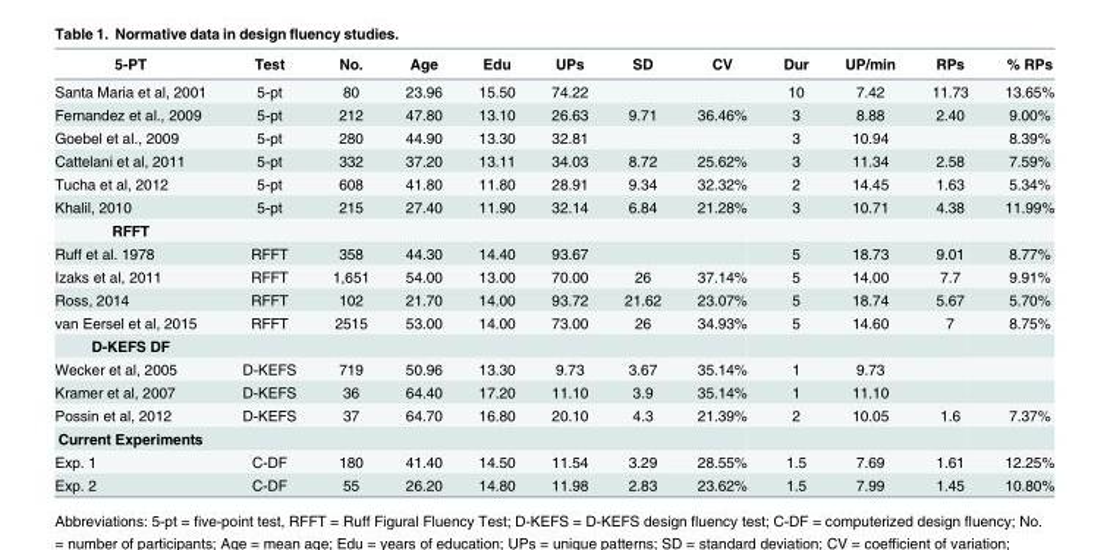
<table><thead><tr><td>5-PT</td><td>Test</td><td>No.</td><td>Age</td><td>Edu</td><td>UPs</td><td>SD</td><td>CV</td><td>Dur</td><td>UP/min</td><td>RPs</td><td>% RPs</td></tr></thead><tbody><tr><td>Santa Maria et al, 2001</td><td>5-pt</td><td>80</td><td>23.96</td><td>15.50</td><td>74.22</td><td></td><td></td><td>10</td><td>7.42</td><td>11.73</td><td>13.65%</td></tr><tr><td>Fernandez et al., 2009</td><td>5-pt</td><td>212</td><td>47.80</td><td>13.10</td><td>26.63</td><td>9.71</td><td>36.46%</td><td>3</td><td>8.88</td><td>2.40</td><td>9.00%</td></tr><tr><td>Goebel et al., 2009</td><td>5-pt</td><td>280</td><td>44.90</td><td>13.30</td><td>32.81</td><td></td><td></td><td>3</td><td>10.94</td><td></td><td>8.39%</td></tr><tr><td>Cattelani et al, 2011</td><td>5-pt</td><td>332</td><td>37.20</td><td>13.11</td><td>34.03</td><td>8.72</td><td>25.62%</td><td>3</td><td>11.34</td><td>2.58</td><td>7.59%</td></tr><tr><td>Tucha et al, 2012</td><td>5-pt</td><td>608</td><td>41.80</td><td>11.80</td><td>28.91</td><td>9.34</td><td>32.32%</td><td>2</td><td>14.45</td><td>1.63</td><td>5.34%</td></tr><tr><td>Khalil, 2010</td><td>5-pt</td><td>215</td><td>27.40</td><td>11.90</td><td>32.14</td><td>6.84</td><td>21.28%</td><td>3</td><td>10.71</td><td>4.38</td><td>11.99%</td></tr><tr><td colspan="12">RFFT</td></tr><tr><td>Ruff et al. 1978</td><td>RFFT</td><td>358</td><td>44.30</td><td>14.40</td><td>93.67</td><td></td><td></td><td>5</td><td>18.73</td><td>9.01</td><td>8.77%</td></tr><tr><td>Izaks et al, 2011</td><td>RFFT</td><td>1,651</td><td>54.00</td><td>13.00</td><td>70.00</td><td>26</td><td>37.14%</td><td>5</td><td>14.00</td><td>7.7</td><td>9.91%</td></tr><tr><td>Ross, 2014</td><td>RFFT</td><td>102</td><td>21.70</td><td>14.00</td><td>93.72</td><td>21.62</td><td>23.07%</td><td>5</td><td>18.74</td><td>5.67</td><td>5.70%</td></tr><tr><td>van Eersel et al, 2015</td><td>RFFT</td><td>2515</td><td>53.00</td><td>14.00</td><td>73.00</td><td>26</td><td>34.93%</td><td>5</td><td>14.60</td><td>7</td><td>8.75%</td></tr><tr><td colspan="12">D-KEFS DF</td></tr><tr><td>Wecker et al, 2005</td><td>D-KEFS</td><td>719</td><td>50.96</td><td>13.30</td><td>9.73</td><td>3.67</td><td>35.14%</td><td>1</td><td>9.73</td><td></td><td></td></tr><tr><td>Kramer et al, 2007</td><td>D-KEFS</td><td>36</td><td>64.40</td><td>17.20</td><td>11.10</td><td>3.9</td><td>35.14%</td><td>1</td><td>11.10</td><td></td><td></td></tr><tr><td>Possin et al, 2012</td><td>D-KEFS</td><td>37</td><td>64.70</td><td>16.80</td><td>20.10</td><td>4.3</td><td>21.39%</td><td>2</td><td>10.05</td><td>1.6</td><td>7.37%</td></tr><tr><td colspan="12">Current Experiments</td></tr><tr><td>Exp. 1</td><td>C-DF</td><td>180</td><td>41.40</td><td>14.50</td><td>11.54</td><td>3.29</td><td>28.55%</td><td>1.5</td><td>7.69</td><td>1.61</td><td>12.25%</td></tr><tr><td>Exp. 2</td><td>C-DF</td><td>55</td><td>26.20</td><td>14.80</td><td>11.98</td><td>2.83</td><td>23.62%</td><td>1.5</td><td>7.99</td><td>1.45</td><td>10.80%</td></tr></tbody></table>